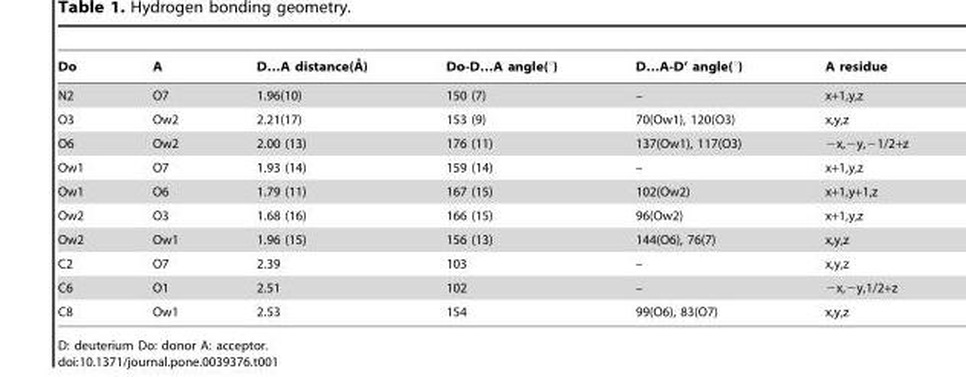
<table><thead><tr><td>Do</td><td>A</td><td>D…A distance(A˚ )</td><td>Do-D…A angle(°)</td><td>D…A-D’ angle(°)</td><td>A residue</td></tr></thead><tbody><tr><td>N2</td><td>O7</td><td>1.96(10)</td><td>150 (7)</td><td>–</td><td>x+1,y,z</td></tr><tr><td>O3</td><td>Ow2</td><td>2.21(17)</td><td>153 (9)</td><td>70(Ow1), 120(O3)</td><td>x,y,z</td></tr><tr><td>O6</td><td>Ow2</td><td>2.00 (13)</td><td>176 (11)</td><td>137(Ow1), 117(O3)</td><td>−x,−y,−1/2+z</td></tr><tr><td>Ow1</td><td>O7</td><td>1.93 (14)</td><td>159 (14)</td><td>–</td><td>x+1,y,z</td></tr><tr><td>Ow1</td><td>O6</td><td>1.79 (11)</td><td>167 (15)</td><td>102(Ow2)</td><td>x+1,y+1,z</td></tr><tr><td>Ow2</td><td>O3</td><td>1.68 (16)</td><td>166 (15)</td><td>96(Ow2)</td><td>x+1,y,z</td></tr><tr><td>Ow2</td><td>Ow1</td><td>1.96 (15)</td><td>156 (13)</td><td>144(O6), 76(7)</td><td>x,y,z</td></tr><tr><td>C2</td><td>O7</td><td>2.39</td><td>103</td><td>–</td><td>x,y,z</td></tr><tr><td>C6</td><td>O1</td><td>2.51</td><td>102</td><td>–</td><td>−x,−y,1/2+z</td></tr><tr><td>C8</td><td>Ow1</td><td>2.53</td><td>154</td><td>99(O6), 83(O7)</td><td>x,y,z</td></tr></tbody></table>